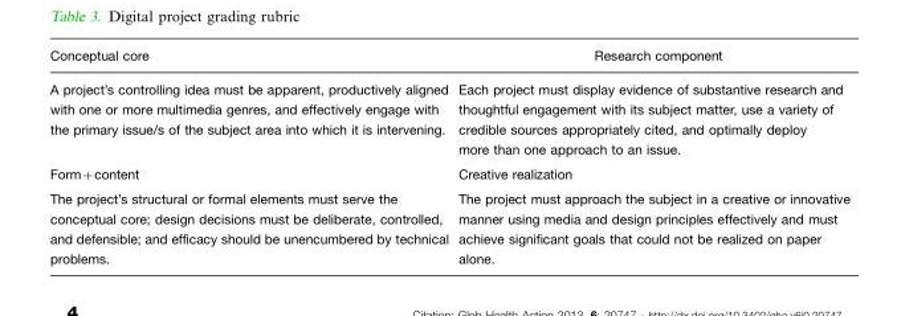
<table><thead><tr><td>Conceptual core</td><td>Research component</td></tr></thead><tbody><tr><td>A project’s controlling idea must be apparent, productively aligned with one or more multimedia genres, and effectively engage with the primary issue/s of the subject area into which it is intervening.</td><td>Each project must display evidence of substantive research and thoughtful engagement with its subject matter, use a variety of credible sources appropriately cited, and optimally deploy more than one approach to an issue.</td></tr><tr><td>Form+content</td><td>Creative realization</td></tr><tr><td>The project’s structural or formal elements must serve the conceptual core; design decisions must be deliberate, controlled, and defensible; and efficacy should be unencumbered by technical problems.</td><td>The project must approach the subject in a creative or innovative manner using media and design principles effectively and must achieve significant goals that could not be realized on paper alone.</td></tr></tbody></table>